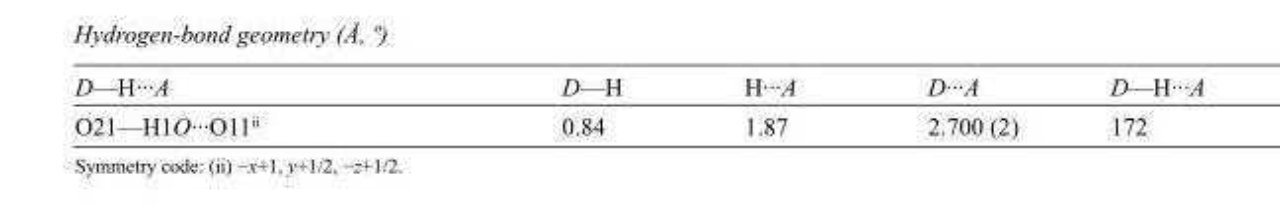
<table><tbody><tr><td>D—H···A</td><td>D—H</td><td>H···A</td><td>D···A</td><td>D—H···A</td></tr><tr><td>O21—H1O···O11<sup>ii</sup></td><td>0.84</td><td>1.87</td><td>2.700 (2)</td><td>172</td></tr></tbody></table>